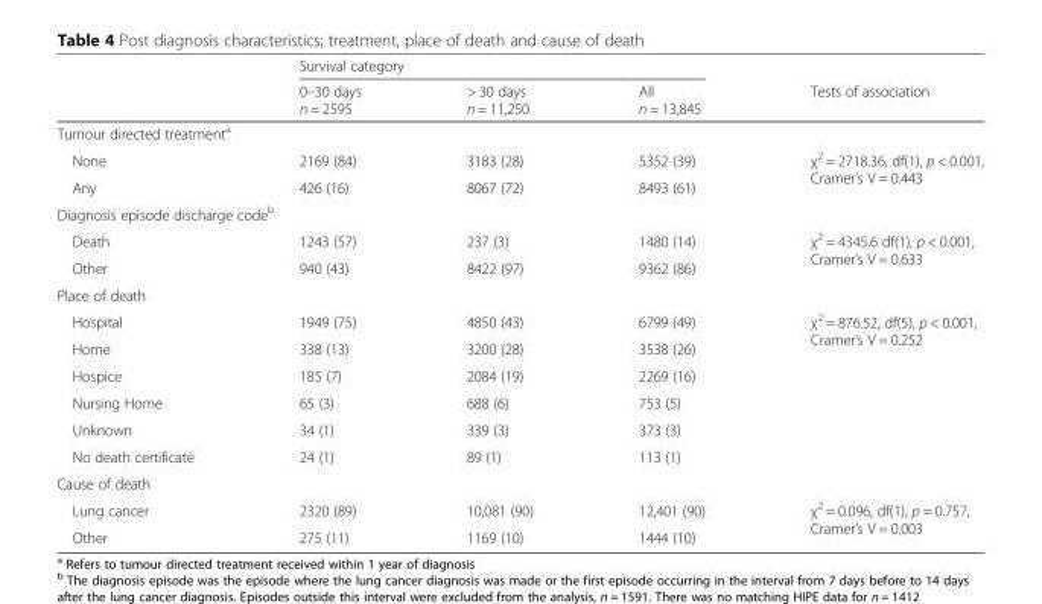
<table><thead><tr><td rowspan="2"></td><td colspan="3">Survival category</td><td rowspan="2">Tests of association</td></tr><tr><td>0–30 days n = 2595</td><td>&gt; 30 days n = 11,250</td><td>All n = 13,845</td></tr></thead><tbody><tr><td colspan="5">Tumour directed treatment<sup>a</sup></td></tr><tr><td>None</td><td>2169 (84)</td><td>3183 (28)</td><td>5352 (39)</td><td rowspan="2">χ<sup>2</sup> = 2718.36, df(1), p &lt; 0.001, Cramer’s V = 0.443</td></tr><tr><td>Any</td><td>426 (16)</td><td>8067 (72)</td><td>8493 (61)</td></tr><tr><td colspan="5">Diagnosis episode discharge code<sup>b</sup></td></tr><tr><td>Death</td><td>1243 (57)</td><td>237 (3)</td><td>1480 (14)</td><td rowspan="2">χ<sup>2</sup> = 4345.6 df(1), p &lt; 0.001, Cramer’s V = 0.633</td></tr><tr><td>Other</td><td>940 (43)</td><td>8422 (97)</td><td>9362 (86)</td></tr><tr><td colspan="5">Place of death</td></tr><tr><td>Hospital</td><td>1949 (75)</td><td>4850 (43)</td><td>6799 (49)</td><td rowspan="6">χ<sup>2</sup> = 876.52, df(5), p &lt; 0.001, Cramer’s V = 0.252</td></tr><tr><td>Home</td><td>338 (13)</td><td>3200 (28)</td><td>3538 (26)</td></tr><tr><td>Hospice</td><td>185 (7)</td><td>2084 (19)</td><td>2269 (16)</td></tr><tr><td>Nursing Home</td><td>65 (3)</td><td>688 (6)</td><td>753 (5)</td></tr><tr><td>Unknown</td><td>34 (1)</td><td>339 (3)</td><td>373 (3)</td></tr><tr><td>No death certificate</td><td>24 (1)</td><td>89 (1)</td><td>113 (1)</td></tr><tr><td colspan="5">Cause of death</td></tr><tr><td>Lung cancer</td><td>2320 (89)</td><td>10,081 (90)</td><td>12,401 (90)</td><td rowspan="2">χ<sup>2</sup> = 0.096, df(1), p = 0.757, Cramer’s V = 0.003</td></tr><tr><td>Other</td><td>275 (11)</td><td>1169 (10)</td><td>1444 (10)</td></tr></tbody></table>